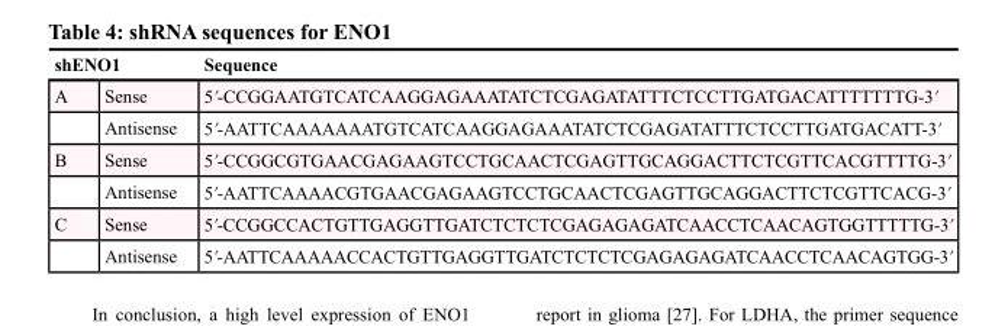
<table><thead><tr><td colspan="2">shENO1</td><td rowspan="2">Sequence 5ʹ-CCGGAATGTCATCAAGGAGAAATATCTCGAGATATTTCTCCTTGATGACATTTTTTTG-3ʹ</td></tr><tr><td>A</td><td>Sense</td></tr></thead><tbody><tr><td></td><td>Antisense</td><td>5ʹ-AATTCAAAAAAATGTCATCAAGGAGAAATATCTCGAGATATTTCTCCTTGATGACATT-3ʹ</td></tr><tr><td rowspan="2">B</td><td>Sense</td><td>5ʹ-CCGGCGTGAACGAGAAGTCCTGCAACTCGAGTTGCAGGACTTCTCGTTCACGTTTTG-3ʹ</td></tr><tr><td>Antisense</td><td>5ʹ-AATTCAAAACGTGAACGAGAAGTCCTGCAACTCGAGTTGCAGGACTTCTCGTTCACG-3ʹ</td></tr><tr><td rowspan="2">C</td><td>Sense</td><td>5ʹ-CCGGCCACTGTTGAGGTTGATCTCTCTCGAGAGAGATCAACCTCAACAGTGGTTTTTG-3ʹ</td></tr><tr><td>Antisense</td><td>5ʹ-AATTCAAAAACCACTGTTGAGGTTGATCTCTCTCGAGAGAGATCAACCTCAACAGTGG-3ʹ</td></tr></tbody></table>